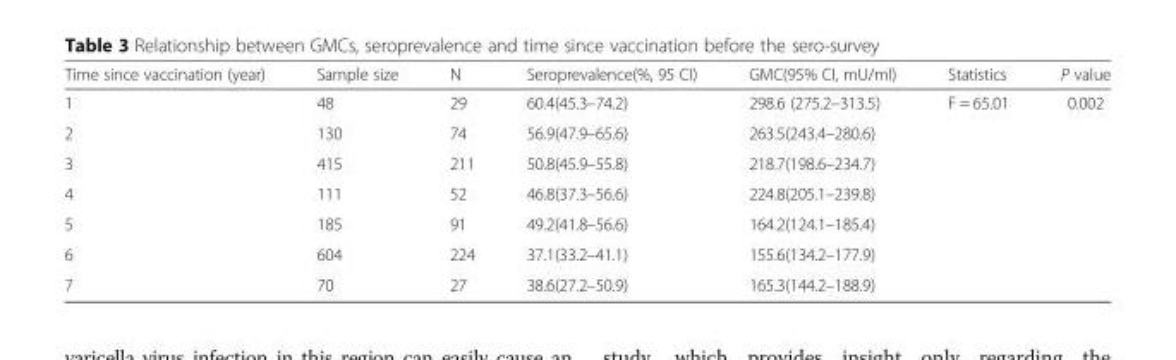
<table><thead><tr><td>Time since vaccination (year)</td><td>Sample size</td><td>N</td><td>Seroprevalence(%, 95 CI)</td><td>GMC(95% CI, mU/ml)</td><td>Statistics</td><td>P value</td></tr></thead><tbody><tr><td>1</td><td>48</td><td>29</td><td>60.4(45.3–74.2)</td><td>298.6 (275.2–313.5)</td><td>F = 65.01</td><td>0.002</td></tr><tr><td>2</td><td>130</td><td>74</td><td>56.9(47.9–65.6)</td><td>263.5(243.4–280.6)</td><td></td><td></td></tr><tr><td>3</td><td>415</td><td>211</td><td>50.8(45.9–55.8)</td><td>218.7(198.6–234.7)</td><td></td><td></td></tr><tr><td>4</td><td>111</td><td>52</td><td>46.8(37.3–56.6)</td><td>224.8(205.1–239.8)</td><td></td><td></td></tr><tr><td>5</td><td>185</td><td>91</td><td>49.2(41.8–56.6)</td><td>164.2(124.1–185.4)</td><td></td><td></td></tr><tr><td>6</td><td>604</td><td>224</td><td>37.1(33.2–41.1)</td><td>155.6(134.2–177.9)</td><td></td><td></td></tr><tr><td>7</td><td>70</td><td>27</td><td>38.6(27.2–50.9)</td><td>165.3(144.2–188.9)</td><td></td><td></td></tr></tbody></table>